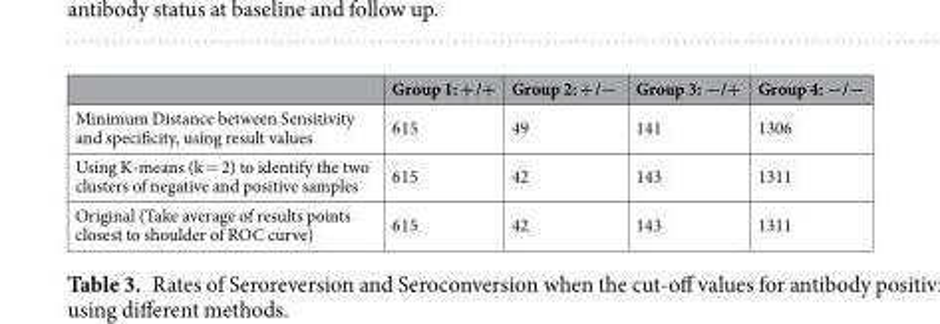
<table><thead><tr><td></td><td>Group 1: + /+</td><td>Group 2: + /−</td><td>Group 3: −/+</td><td>Group 4: −/−</td></tr></thead><tbody><tr><td>Minimum Distance between Sensitivity and specificity, using result values</td><td>615</td><td>49</td><td>141</td><td>1306</td></tr><tr><td>Using K-means (k = 2) to identify the two clusters of negative and positive samples</td><td>615</td><td>42</td><td>143</td><td>1311</td></tr><tr><td>Original (Take average of results points closest to shoulder of ROC curve)</td><td>615</td><td>42</td><td>143</td><td>1311</td></tr></tbody></table>